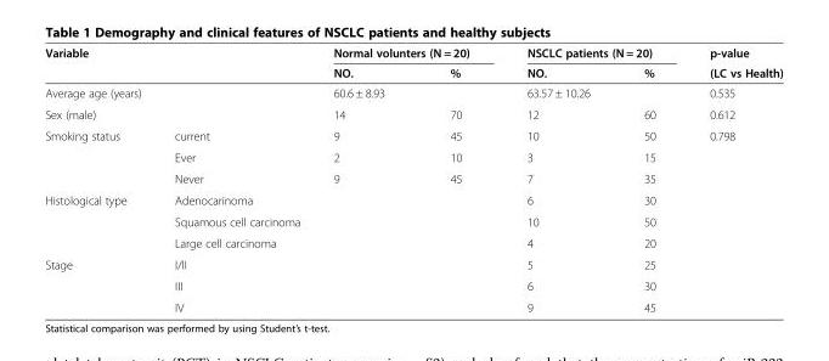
<table><thead><tr><td rowspan="2">Variable</td><td rowspan="2"></td><td colspan="2">Normal volunters (N = 20)</td><td colspan="2">NSCLC patients (N = 20)</td><td rowspan="2">p-value (LC vs Health)</td></tr><tr><td>NO.</td><td>%</td><td>NO.</td><td>%</td></tr></thead><tbody><tr><td>Average age (years)</td><td></td><td>60.6 ± 8.93</td><td></td><td>63.57 ± 10.26</td><td></td><td>0.535</td></tr><tr><td>Sex (male)</td><td></td><td>14</td><td>70</td><td>12</td><td>60</td><td>0.612</td></tr><tr><td rowspan="3">Smoking status</td><td>current</td><td>9</td><td>45</td><td>10</td><td>50</td><td>0.798</td></tr><tr><td>Ever</td><td>2</td><td>10</td><td>3</td><td>15</td><td></td></tr><tr><td>Never</td><td>9</td><td>45</td><td>7</td><td>35</td><td></td></tr><tr><td rowspan="3">Histological type</td><td>Adenocarinoma</td><td></td><td></td><td>6</td><td>30</td><td></td></tr><tr><td>Squamous cell carcinoma</td><td></td><td></td><td>10</td><td>50</td><td></td></tr><tr><td>Large cell carcinoma</td><td></td><td></td><td>4</td><td>20</td><td></td></tr><tr><td rowspan="3">Stage</td><td>I/II</td><td></td><td></td><td>5</td><td>25</td><td></td></tr><tr><td>III</td><td></td><td></td><td>6</td><td>30</td><td></td></tr><tr><td>IV</td><td></td><td></td><td>9</td><td>45</td><td></td></tr></tbody></table>